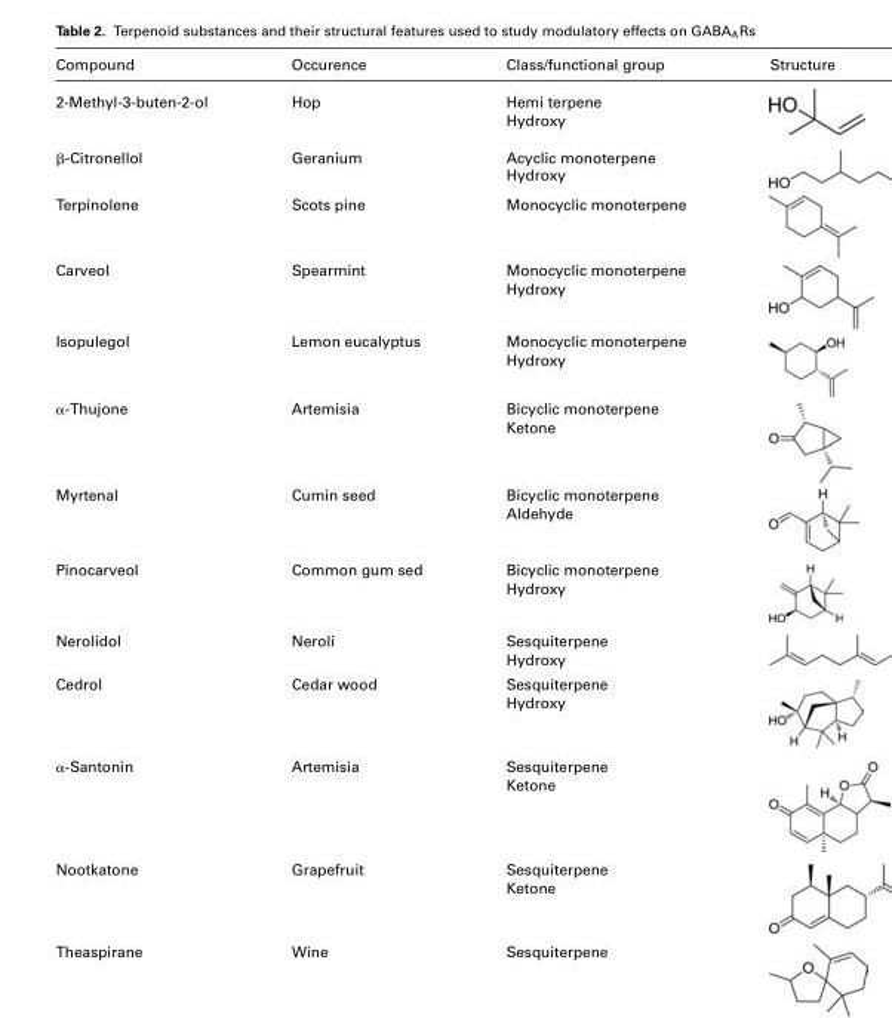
<table><thead><tr><td>Compound</td><td>Occurence</td><td>Class/functional group</td><td>Structure</td></tr></thead><tbody><tr><td>2-Methyl-3-buten-2-ol</td><td>Hop</td><td>Hemi terpene Hydroxy</td><td></td></tr><tr><td>β-Citronellol</td><td>Geranium</td><td>Acyclic monoterpene Hydroxy</td><td></td></tr><tr><td>Terpinolene</td><td>Scots pine</td><td>Monocyclic monoterpene</td><td></td></tr><tr><td>Carveol</td><td>Spearmint</td><td>Monocyclic monoterpene Hydroxy</td><td></td></tr><tr><td>Isopulegol</td><td>Lemon eucalyptus</td><td>Monocyclic monoterpene Hydroxy</td><td></td></tr><tr><td>α-Thujone</td><td>Artemisia</td><td>Bicyclic monoterpene Ketone</td><td></td></tr><tr><td>Myrtenal</td><td>Cumin seed</td><td>Bicyclic monoterpene Aldehyde</td><td></td></tr><tr><td>Pinocarveol</td><td>Common gum sed</td><td>Bicyclic monoterpene Hydroxy</td><td></td></tr><tr><td>Nerolidol</td><td>Neroli</td><td>Sesquiterpene Hydroxy</td><td></td></tr><tr><td>Cedrol</td><td>Cedar wood</td><td>Sesquiterpene Hydroxy</td><td></td></tr><tr><td>α-Santonin</td><td>Artemisia</td><td>Sesquiterpene Ketone</td><td></td></tr><tr><td>Nootkatone</td><td>Grapefruit</td><td>Sesquiterpene Ketone</td><td></td></tr><tr><td>Theaspirane</td><td>Wine</td><td>Sesquiterpene</td><td></td></tr></tbody></table>